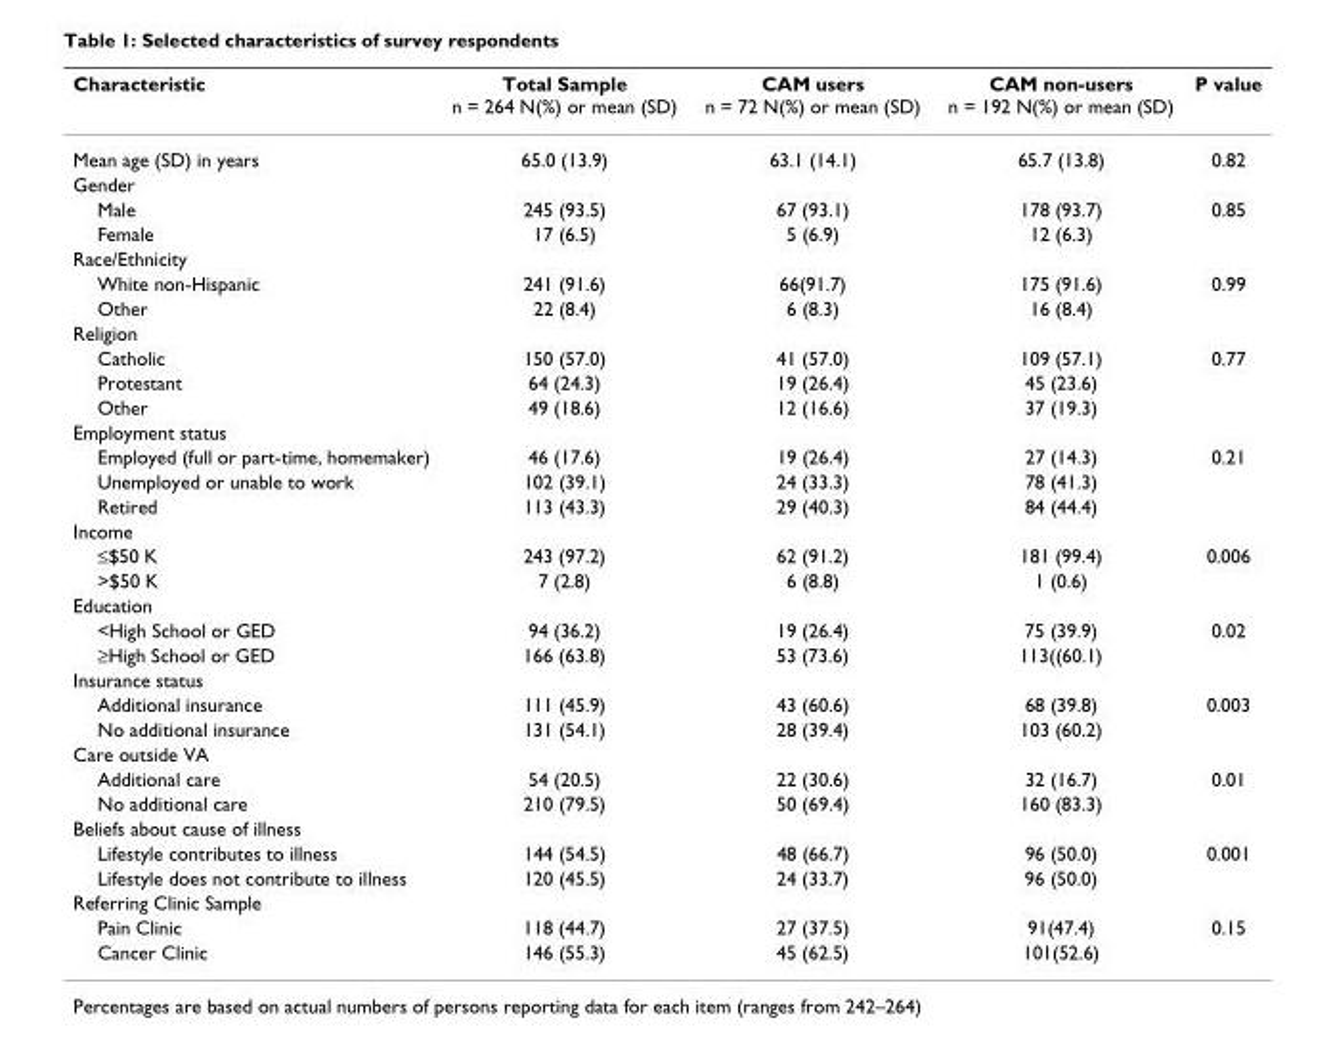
<table><thead><tr><td>Characteristic</td><td>Total Sample n = 264 N(%) or mean (SD)</td><td>CAM users n = 72 N(%) or mean (SD)</td><td>CAM non-users n = 192 N(%) or mean (SD)</td><td>P value</td></tr></thead><tbody><tr><td>Mean age (SD) in years</td><td>65.0 (13.9)</td><td>63.1 (14.1)</td><td>65.7 (13.8)</td><td>0.82</td></tr><tr><td colspan="5">Gender</td></tr><tr><td>Male</td><td>245 (93.5)</td><td>67 (93.1)</td><td>178 (93.7)</td><td>0.85</td></tr><tr><td>Female</td><td>17 (6.5)</td><td>5 (6.9)</td><td>12 (6.3)</td><td></td></tr><tr><td colspan="5">Race/Ethnicity</td></tr><tr><td>White non-Hispanic</td><td>241 (91.6)</td><td>66(91.7)</td><td>175 (91.6)</td><td>0.99</td></tr><tr><td>Other</td><td>22 (8.4)</td><td>6 (8.3)</td><td>16 (8.4)</td><td></td></tr><tr><td colspan="5">Religion</td></tr><tr><td>Catholic</td><td>150 (57.0)</td><td>41 (57.0)</td><td>109 (57.1)</td><td>0.77</td></tr><tr><td>Protestant</td><td>64 (24.3)</td><td>19 (26.4)</td><td>45 (23.6)</td><td></td></tr><tr><td>Other</td><td>49 (18.6)</td><td>12 (16.6)</td><td>37 (19.3)</td><td></td></tr><tr><td colspan="5">Employment status</td></tr><tr><td>Employed (full or part-time, homemaker)</td><td>46 (17.6)</td><td>19 (26.4)</td><td>27 (14.3)</td><td>0.21</td></tr><tr><td>Unemployed or unable to work</td><td>102 (39.1)</td><td>24 (33.3)</td><td>78 (41.3)</td><td></td></tr><tr><td>Retired</td><td>113 (43.3)</td><td>29 (40.3)</td><td>84 (44.4)</td><td></td></tr><tr><td colspan="5">Income</td></tr><tr><td>≤$50 K</td><td>243 (97.2)</td><td>62 (91.2)</td><td>181 (99.4)</td><td>0.006</td></tr><tr><td>&gt;$50 K</td><td>7 (2.8)</td><td>6 (8.8)</td><td>1 (0.6)</td><td></td></tr><tr><td colspan="5">Education</td></tr><tr><td>&lt;High School or GED</td><td>94 (36.2)</td><td>19 (26.4)</td><td>75 (39.9)</td><td>0.02</td></tr><tr><td>≥High School or GED</td><td>166 (63.8)</td><td>53 (73.6)</td><td>113((60.1)</td><td></td></tr><tr><td colspan="5">Insurance status</td></tr><tr><td>Additional insurance</td><td>111 (45.9)</td><td>43 (60.6)</td><td>68 (39.8)</td><td>0.003</td></tr><tr><td>No additional insurance</td><td>131 (54.1)</td><td>28 (39.4)</td><td>103 (60.2)</td><td></td></tr><tr><td colspan="5">Care outside VA</td></tr><tr><td>Additional care</td><td>54 (20.5)</td><td>22 (30.6)</td><td>32 (16.7)</td><td>0.01</td></tr><tr><td>No additional care</td><td>210 (79.5)</td><td>50 (69.4)</td><td>160 (83.3)</td><td></td></tr><tr><td colspan="5">Beliefs about cause of illness</td></tr><tr><td>Lifestyle contributes to illness</td><td>144 (54.5)</td><td>48 (66.7)</td><td>96 (50.0)</td><td>0.001</td></tr><tr><td>Lifestyle does not contribute to illness</td><td>120 (45.5)</td><td>24 (33.7)</td><td>96 (50.0)</td><td></td></tr><tr><td colspan="5">Referring Clinic Sample</td></tr><tr><td>Pain Clinic</td><td>118 (44.7)</td><td>27 (37.5)</td><td>91(47.4)</td><td>0.15</td></tr><tr><td>Cancer Clinic</td><td>146 (55.3)</td><td>45 (62.5)</td><td>101(52.6)</td><td></td></tr></tbody></table>